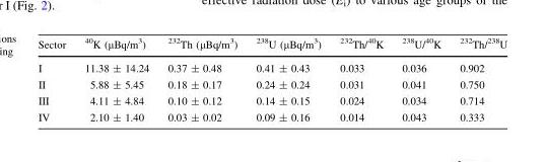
<table><thead><tr><td>Sector</td><td><sup>40</sup>K (μBq/m<sup>3</sup>)</td><td><sup>232</sup>Th (μBq/m<sup>3</sup>)</td><td><sup>238</sup>U (μBq/m<sup>3</sup>)</td><td><sup>232</sup>Th/<sup>40</sup>K</td><td><sup>238</sup>U/<sup>40</sup>K</td><td><sup>232</sup>Th/<sup>238</sup>U</td></tr></thead><tbody><tr><td>I</td><td>11.38 ± 14.24</td><td>0.37 ± 0.48</td><td>0.41 ± 0.43</td><td>0.033</td><td>0.036</td><td>0.902</td></tr><tr><td>II</td><td>5.88 ± 5.45</td><td>0.18 ± 0.17</td><td>0.24 ± 0.24</td><td>0.031</td><td>0.041</td><td>0.750</td></tr><tr><td>III</td><td>4.11 ± 4.84</td><td>0.10 ± 0.12</td><td>0.14 ± 0.15</td><td>0.024</td><td>0.034</td><td>0.714</td></tr><tr><td>IV</td><td>2.10 ± 1.40</td><td>0.03 ± 0.02</td><td>0.09 ± 0.16</td><td>0.014</td><td>0.043</td><td>0.333</td></tr></tbody></table>